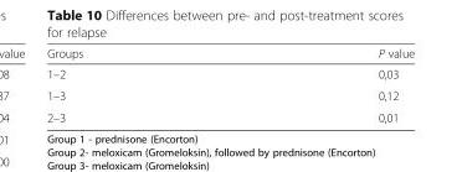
<table><thead><tr><td>Groups</td><td>P value</td></tr></thead><tbody><tr><td>1–2</td><td>0,03</td></tr><tr><td>1–3</td><td>0,12</td></tr><tr><td>2–3</td><td>0,01</td></tr></tbody></table>